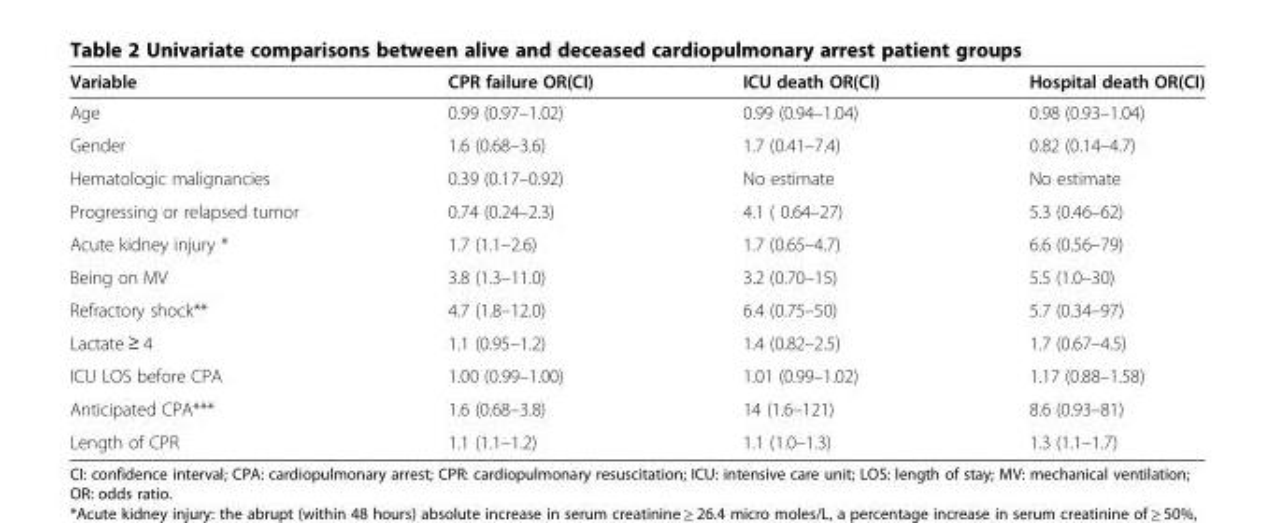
<table><thead><tr><td>Variable</td><td>CPR failure OR(CI)</td><td>ICU death OR(CI)</td><td>Hospital death OR(CI)</td></tr></thead><tbody><tr><td>Age</td><td>0.99 (0.97–1.02)</td><td>0.99 (0.94–1.04)</td><td>0.98 (0.93–1.04)</td></tr><tr><td>Gender</td><td>1.6 (0.68–3.6)</td><td>1.7 (0.41–7.4)</td><td>0.82 (0.14–4.7)</td></tr><tr><td>Hematologic malignancies</td><td>0.39 (0.17–0.92)</td><td>No estimate</td><td>No estimate</td></tr><tr><td>Progressing or relapsed tumor</td><td>0.74 (0.24–2.3)</td><td>4.1 ( 0.64–27)</td><td>5.3 (0.46–62)</td></tr><tr><td>Acute kidney injury *</td><td>1.7 (1.1–2.6)</td><td>1.7 (0.65–4.7)</td><td>6.6 (0.56–79)</td></tr><tr><td>Being on MV</td><td>3.8 (1.3–11.0)</td><td>3.2 (0.70–15)</td><td>5.5 (1.0–30)</td></tr><tr><td>Refractory shock**</td><td>4.7 (1.8–12.0)</td><td>6.4 (0.75–50)</td><td>5.7 (0.34–97)</td></tr><tr><td>Lactate ≥ 4</td><td>1.1 (0.95–1.2)</td><td>1.4 (0.82–2.5)</td><td>1.7 (0.67–4.5)</td></tr><tr><td>ICU LOS before CPA</td><td>1.00 (0.99–1.00)</td><td>1.01 (0.99–1.02)</td><td>1.17 (0.88–1.58)</td></tr><tr><td>Anticipated CPA***</td><td>1.6 (0.68–3.8)</td><td>14 (1.6–121)</td><td>8.6 (0.93–81)</td></tr><tr><td>Length of CPR</td><td>1.1 (1.1–1.2)</td><td>1.1 (1.0–1.3)</td><td>1.3 (1.1–1.7)</td></tr></tbody></table>